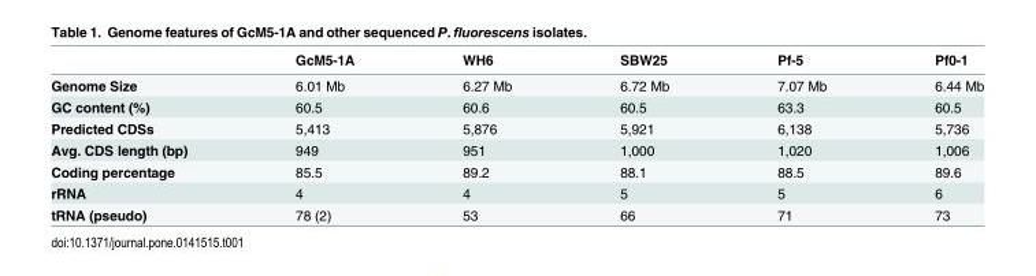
<table><thead><tr><td></td><td>GcM5-1A</td><td>WH6</td><td>SBW25</td><td>Pf-5</td><td>Pf0-1</td></tr></thead><tbody><tr><td>Genome Size</td><td>6.01 Mb</td><td>6.27 Mb</td><td>6.72 Mb</td><td>7.07 Mb</td><td>6.44 Mb</td></tr><tr><td>GC content (%)</td><td>60.5</td><td>60.6</td><td>60.5</td><td>63.3</td><td>60.5</td></tr><tr><td>Predicted CDSs</td><td>5,413</td><td>5,876</td><td>5,921</td><td>6,138</td><td>5,736</td></tr><tr><td>Avg. CDS length (bp)</td><td>949</td><td>951</td><td>1,000</td><td>1,020</td><td>1,006</td></tr><tr><td>Coding percentage</td><td>85.5</td><td>89.2</td><td>88.1</td><td>88.5</td><td>89.6</td></tr><tr><td>rRNA</td><td>4</td><td>4</td><td>5</td><td>5</td><td>6</td></tr><tr><td>tRNA (pseudo)</td><td>78 (2)</td><td>53</td><td>66</td><td>71</td><td>73</td></tr></tbody></table>